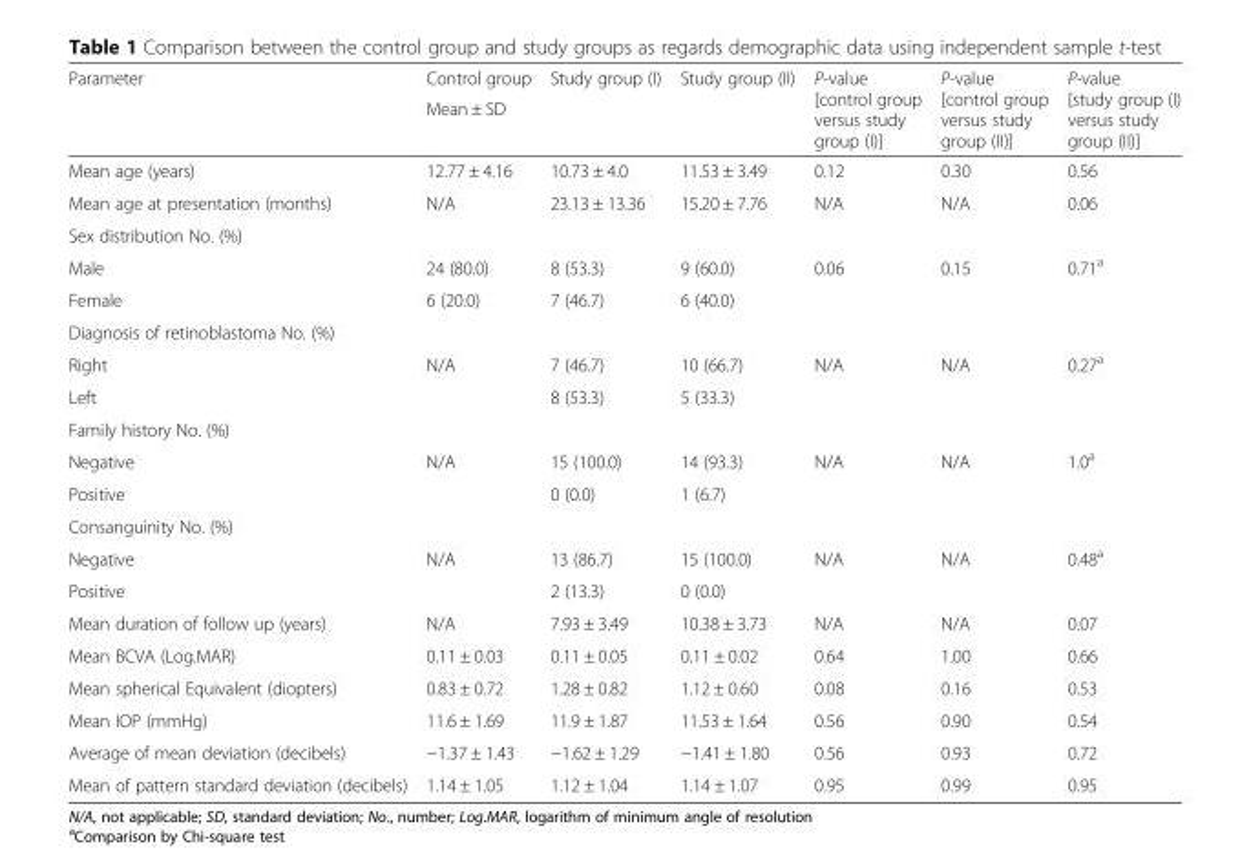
<table><thead><tr><td rowspan="2">Parameter</td><td>Control group</td><td>Study group (I)</td><td>Study group (II)</td><td rowspan="2">P-value [control group versus study group (I)]</td><td rowspan="2">P-value [control group versus study group (II)]</td><td rowspan="2">P-value [study group (I) versus study group (II)]</td></tr><tr><td colspan="3">Mean ± SD</td></tr></thead><tbody><tr><td>Mean age (years)</td><td>12.77 ± 4.16</td><td>10.73 ± 4.0</td><td>11.53 ± 3.49</td><td>0.12</td><td>0.30</td><td>0.56</td></tr><tr><td>Mean age at presentation (months)</td><td>N/A</td><td>23.13 ± 13.36</td><td>15.20 ± 7.76</td><td>N/A</td><td>N/A</td><td>0.06</td></tr><tr><td colspan="7">Sex distribution No. (%)</td></tr><tr><td>Male</td><td>24 (80.0)</td><td>8 (53.3)</td><td>9 (60.0)</td><td>0.06</td><td>0.15</td><td>0.71<sup>a</sup></td></tr><tr><td>Female</td><td>6 (20.0)</td><td>7 (46.7)</td><td>6 (40.0)</td><td></td><td></td><td></td></tr><tr><td colspan="7">Diagnosis of retinoblastoma No. (%)</td></tr><tr><td>Right</td><td>N/A</td><td>7 (46.7)</td><td>10 (66.7)</td><td>N/A</td><td>N/A</td><td>0.27<sup>a</sup></td></tr><tr><td>Left</td><td></td><td>8 (53.3)</td><td>5 (33.3)</td><td></td><td></td><td></td></tr><tr><td colspan="7">Family history No. (%)</td></tr><tr><td>Negative</td><td>N/A</td><td>15 (100.0)</td><td>14 (93.3)</td><td>N/A</td><td>N/A</td><td>1.0<sup>a</sup></td></tr><tr><td>Positive</td><td></td><td>0 (0.0)</td><td>1 (6.7)</td><td></td><td></td><td></td></tr><tr><td colspan="7">Consanguinity No. (%)</td></tr><tr><td>Negative</td><td>N/A</td><td>13 (86.7)</td><td>15 (100.0)</td><td>N/A</td><td>N/A</td><td>0.48<sup>a</sup></td></tr><tr><td>Positive</td><td></td><td>2 (13.3)</td><td>0 (0.0)</td><td></td><td></td><td></td></tr><tr><td>Mean duration of follow up (years)</td><td>N/A</td><td>7.93 ± 3.49</td><td>10.38 ± 3.73</td><td>N/A</td><td>N/A</td><td>0.07</td></tr><tr><td>Mean BCVA (Log.MAR)</td><td>0.11 ± 0.03</td><td>0.11 ± 0.05</td><td>0.11 ± 0.02</td><td>0.64</td><td>1.00</td><td>0.66</td></tr><tr><td>Mean spherical Equivalent (diopters)</td><td>0.83 ± 0.72</td><td>1.28 ± 0.82</td><td>1.12 ± 0.60</td><td>0.08</td><td>0.16</td><td>0.53</td></tr><tr><td>Mean IOP (mmHg)</td><td>11.6 ± 1.69</td><td>11.9 ± 1.87</td><td>11.53 ± 1.64</td><td>0.56</td><td>0.90</td><td>0.54</td></tr><tr><td>Average of mean deviation (decibels)</td><td>−1.37 ± 1.43</td><td>−1.62 ± 1.29</td><td>−1.41 ± 1.80</td><td>0.56</td><td>0.93</td><td>0.72</td></tr><tr><td>Mean of pattern standard deviation (decibels)</td><td>1.14 ± 1.05</td><td>1.12 ± 1.04</td><td>1.14 ± 1.07</td><td>0.95</td><td>0.99</td><td>0.95</td></tr></tbody></table>